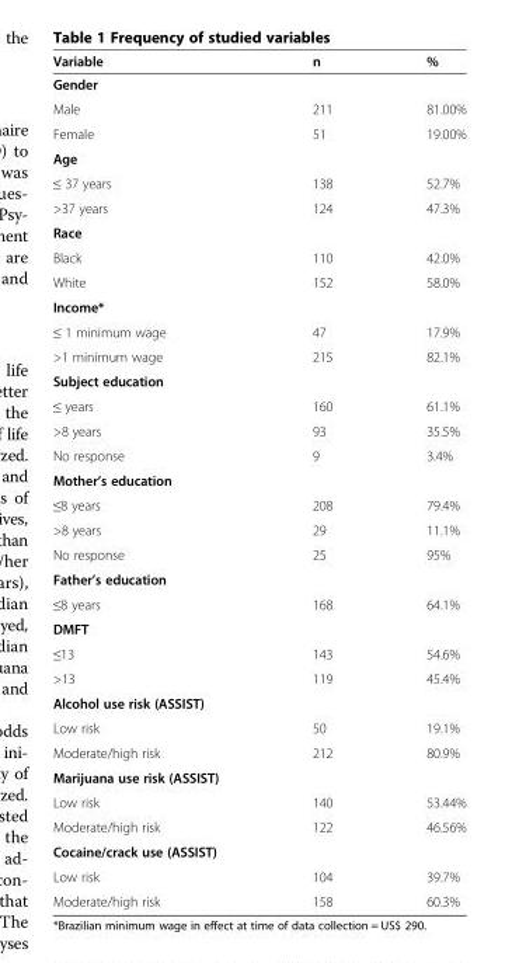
<table><thead><tr><td>Variable</td><td>n</td><td>%</td></tr></thead><tbody><tr><td colspan="3">Gender</td></tr><tr><td>Male</td><td>211</td><td>81.00%</td></tr><tr><td>Female</td><td>51</td><td>19.00%</td></tr><tr><td colspan="3">Age</td></tr><tr><td>≤ 37 years</td><td>138</td><td>52.7%</td></tr><tr><td>&gt;37 years</td><td>124</td><td>47.3%</td></tr><tr><td colspan="3">Race</td></tr><tr><td>Black</td><td>110</td><td>42.0%</td></tr><tr><td>White</td><td>152</td><td>58.0%</td></tr><tr><td colspan="3">Income*</td></tr><tr><td>≤ 1 minimum wage</td><td>47</td><td>17.9%</td></tr><tr><td>&gt;1 minimum wage</td><td>215</td><td>82.1%</td></tr><tr><td colspan="3">Subject education</td></tr><tr><td>≤ years</td><td>160</td><td>61.1%</td></tr><tr><td>&gt;8 years</td><td>93</td><td>35.5%</td></tr><tr><td>No response</td><td>9</td><td>3.4%</td></tr><tr><td colspan="3">Mother’s education</td></tr><tr><td>≤8 years</td><td>208</td><td>79.4%</td></tr><tr><td>&gt;8 years</td><td>29</td><td>11.1%</td></tr><tr><td>No response</td><td>25</td><td>95%</td></tr><tr><td colspan="3">Father’s education</td></tr><tr><td>≤8 years</td><td>168</td><td>64.1%</td></tr><tr><td colspan="3">DMFT</td></tr><tr><td>≤13</td><td>143</td><td>54.6%</td></tr><tr><td>&gt;13</td><td>119</td><td>45.4%</td></tr><tr><td colspan="3">Alcohol use risk (ASSIST)</td></tr><tr><td>Low risk</td><td>50</td><td>19.1%</td></tr><tr><td>Moderate/high risk</td><td>212</td><td>80.9%</td></tr><tr><td colspan="3">Marijuana use risk (ASSIST)</td></tr><tr><td>Low risk</td><td>140</td><td>53.44%</td></tr><tr><td>Moderate/high risk</td><td>122</td><td>46.56%</td></tr><tr><td colspan="3">Cocaine/crack use (ASSIST)</td></tr><tr><td>Low risk</td><td>104</td><td>39.7%</td></tr><tr><td>Moderate/high risk</td><td>158</td><td>60.3%</td></tr></tbody></table>